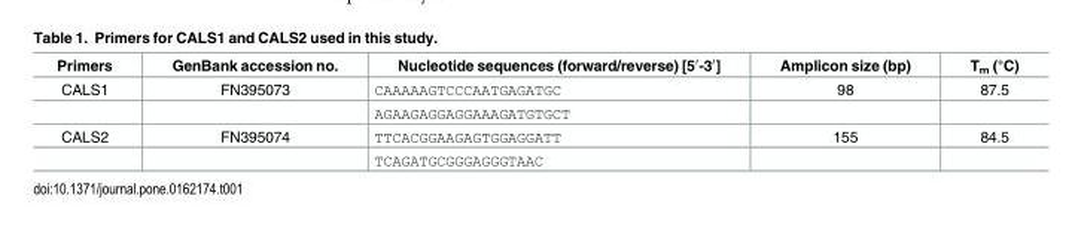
<table><thead><tr><td>Primers</td><td>GenBank accession no.</td><td>Nucleotide sequences (forward/reverse) [5′-3′]</td><td>Amplicon size (bp)</td><td>T<sub>m</sub> (°C)</td></tr></thead><tbody><tr><td rowspan="2">CALS1</td><td>FN395073</td><td>CAAAAAGTCCCAATGAGATGC</td><td>98</td><td>87.5</td></tr><tr><td></td><td>AGAAGAGGAGGAAAGATGTGCT</td><td></td><td></td></tr><tr><td rowspan="2">CALS2</td><td>FN395074</td><td>TTCACGGAAGAGTGGAGGATT</td><td>155</td><td>84.5</td></tr><tr><td></td><td>TCAGATGCGGGAGGGTAAC</td><td></td><td></td></tr></tbody></table>